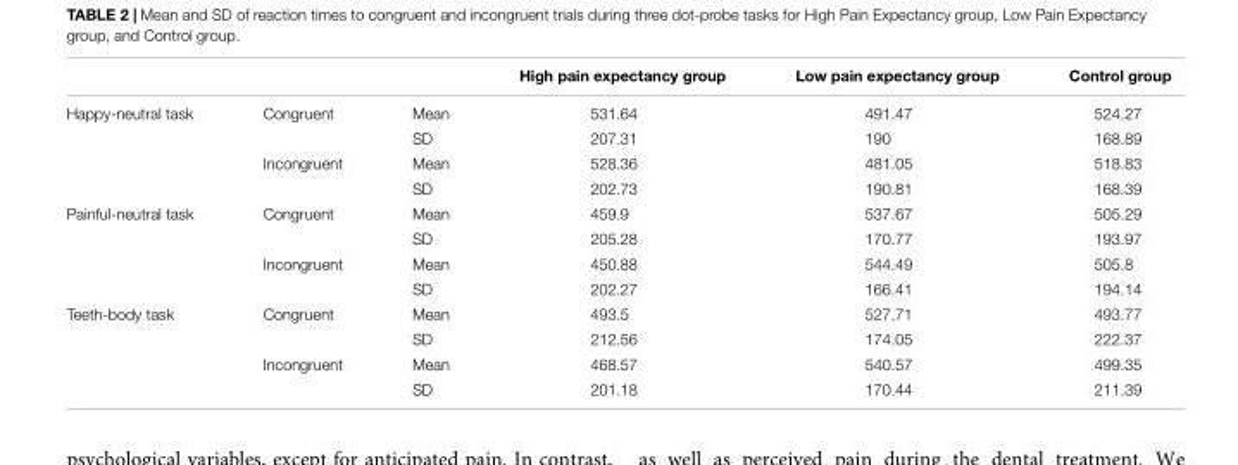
<table><thead><tr><td></td><td></td><td></td><td>High pain expectancy group</td><td>Low pain expectancy group</td><td>Control group</td></tr></thead><tbody><tr><td rowspan="4">Happy-neutral task</td><td>Congruent</td><td>Mean</td><td>531.64</td><td>491.47</td><td>524.27</td></tr><tr><td></td><td>SD</td><td>207.31</td><td>190</td><td>168.89</td></tr><tr><td>Incongruent</td><td>Mean</td><td>528.36</td><td>481.05</td><td>518.83</td></tr><tr><td></td><td>SD</td><td>202.73</td><td>190.81</td><td>168.39</td></tr><tr><td rowspan="4">Painful-neutral task</td><td>Congruent</td><td>Mean</td><td>459.9</td><td>537.67</td><td>505.29</td></tr><tr><td></td><td>SD</td><td>205.28</td><td>170.77</td><td>193.97</td></tr><tr><td>Incongruent</td><td>Mean</td><td>450.88</td><td>544.49</td><td>505.8</td></tr><tr><td></td><td>SD</td><td>202.27</td><td>166.41</td><td>194.14</td></tr><tr><td rowspan="4">Teeth-body task</td><td>Congruent</td><td>Mean</td><td>493.5</td><td>527.71</td><td>493.77</td></tr><tr><td></td><td>SD</td><td>212.56</td><td>174.05</td><td>222.37</td></tr><tr><td>Incongruent</td><td>Mean</td><td>468.57</td><td>540.57</td><td>499.35</td></tr><tr><td></td><td>SD</td><td>201.18</td><td>170.44</td><td>211.39</td></tr></tbody></table>